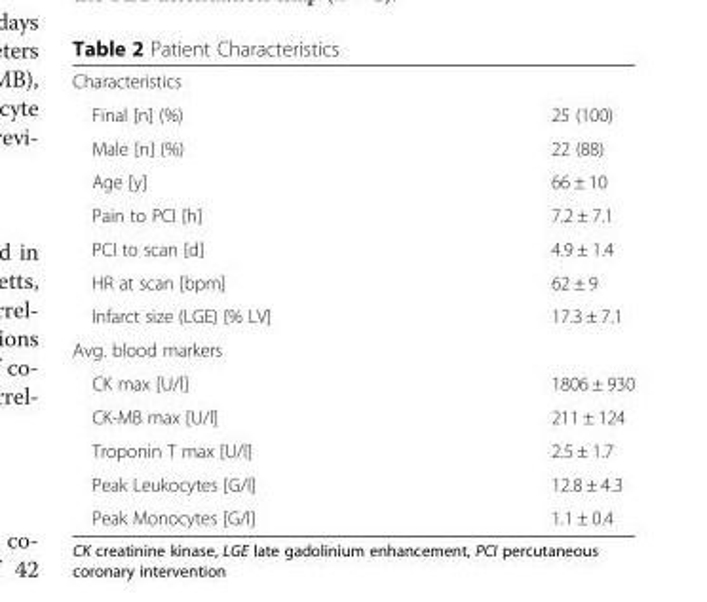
<table><tbody><tr><td colspan="2">Characteristics</td></tr><tr><td>Final [n] (%)</td><td>25 (100)</td></tr><tr><td>Male [n] (%)</td><td>22 (88)</td></tr><tr><td>Age [y]</td><td>66 ± 10</td></tr><tr><td>Pain to PCI [h]</td><td>7.2 ± 7.1</td></tr><tr><td>PCI to scan [d]</td><td>4.9 ± 1.4</td></tr><tr><td>HR at scan [bpm]</td><td>62 ± 9</td></tr><tr><td>Infarct size (LGE) [% LV]</td><td>17.3 ± 7.1</td></tr><tr><td colspan="2">Avg. blood markers</td></tr><tr><td>CK max [U/l]</td><td>1806 ± 930</td></tr><tr><td>CK-MB max [U/l]</td><td>211 ± 124</td></tr><tr><td>Troponin T max [U/l]</td><td>2.5 ± 1.7</td></tr><tr><td>Peak Leukocytes [G/l]</td><td>12.8 ± 4.3</td></tr><tr><td>Peak Monocytes [G/l]</td><td>1.1 ± 0.4</td></tr></tbody></table>